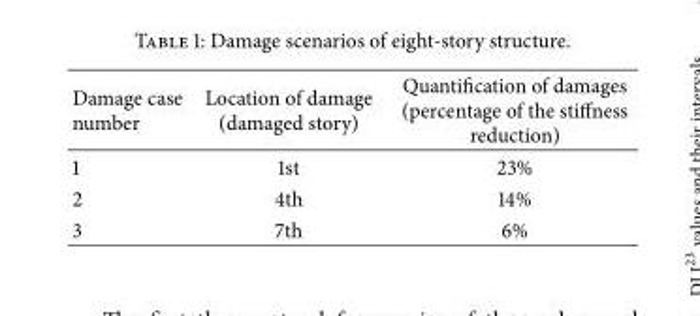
<table><thead><tr><td>Damage case number</td><td>Location of damage (damaged story)</td><td>Quantification of damages (percentage of the stiffness reduction)</td></tr></thead><tbody><tr><td>1</td><td>1st</td><td>23%</td></tr><tr><td>2</td><td>4th</td><td>14%</td></tr><tr><td>3</td><td>7th</td><td>6%</td></tr></tbody></table>